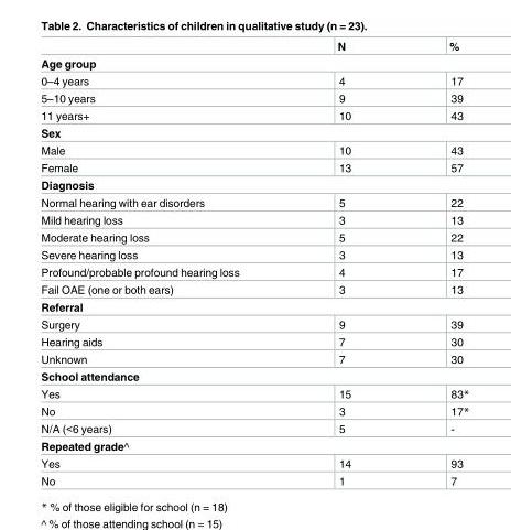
<table><thead><tr><td></td><td>N</td><td>%</td></tr></thead><tbody><tr><td colspan="3">Age group</td></tr><tr><td>0–4 years</td><td>4</td><td>17</td></tr><tr><td>5–10 years</td><td>9</td><td>39</td></tr><tr><td>11 years+</td><td>10</td><td>43</td></tr><tr><td colspan="3">Sex</td></tr><tr><td>Male</td><td>10</td><td>43</td></tr><tr><td>Female</td><td>13</td><td>57</td></tr><tr><td colspan="3">Diagnosis</td></tr><tr><td>Normal hearing with ear disorders</td><td>5</td><td>22</td></tr><tr><td>Mild hearing loss</td><td>3</td><td>13</td></tr><tr><td>Moderate hearing loss</td><td>5</td><td>22</td></tr><tr><td>Severe hearing loss</td><td>3</td><td>13</td></tr><tr><td>Profound/probable profound hearing loss</td><td>4</td><td>17</td></tr><tr><td>Fail OAE (one or both ears)</td><td>3</td><td>13</td></tr><tr><td colspan="3">Referral</td></tr><tr><td>Surgery</td><td>9</td><td>39</td></tr><tr><td>Hearing aids</td><td>7</td><td>30</td></tr><tr><td>Unknown</td><td>7</td><td>30</td></tr><tr><td colspan="3">School attendance</td></tr><tr><td>Yes</td><td>15</td><td>83*</td></tr><tr><td>No</td><td>3</td><td>17*</td></tr><tr><td>N/A (&lt;6 years)</td><td>5</td><td>-</td></tr><tr><td colspan="3">Repeated grade^</td></tr><tr><td>Yes</td><td>14</td><td>93</td></tr><tr><td>No</td><td>1</td><td>7</td></tr></tbody></table>